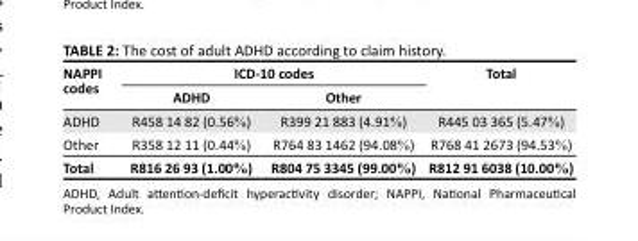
<table><thead><tr><td rowspan="2">NAPPI codes</td><td colspan="2">ICD-10 codes</td><td rowspan="2">Total</td></tr><tr><td>ADHD</td><td>Other</td></tr></thead><tbody><tr><td>ADHD</td><td>R458 14 82 (0.56%)</td><td>R399 21 883 (4.91%)</td><td>R445 03 365 (5.47%)</td></tr><tr><td>Other</td><td>R358 12 11 (0.44%)</td><td>R764 83 1462 (94.08%)</td><td>R768 41 2673 (94.53%)</td></tr><tr><td>Total</td><td>R816 26 93 (1.00%)</td><td>R804 75 3345 (99.00%)</td><td>R812 91 6038 (10.00%)</td></tr></tbody></table>